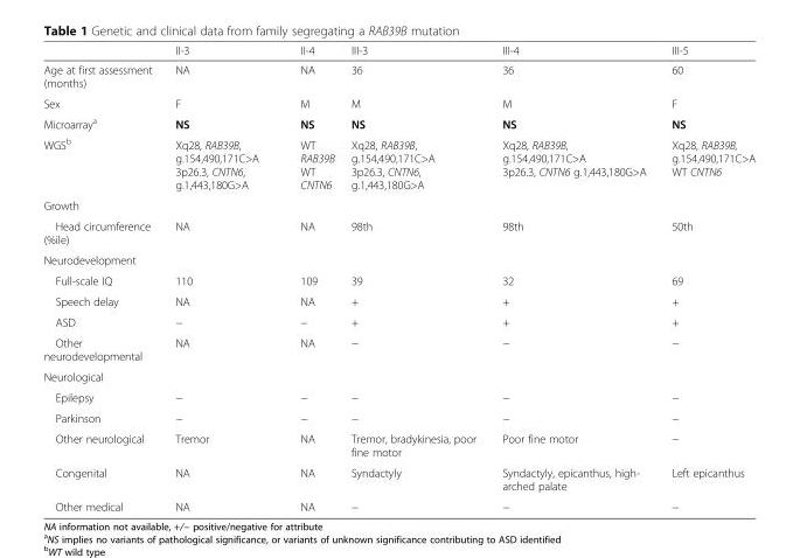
<table><thead><tr><td></td><td>II-3</td><td>II-4</td><td>III-3</td><td>III-4</td><td>III-5</td></tr></thead><tbody><tr><td>Age at first assessment (months)</td><td>NA</td><td>NA</td><td>36</td><td>36</td><td>60</td></tr><tr><td>Sex</td><td>F</td><td>M</td><td>M</td><td>M</td><td>F</td></tr><tr><td>Microarray<sup>a</sup></td><td>NS</td><td>NS</td><td>NS</td><td>NS</td><td>NS</td></tr><tr><td>WGS<sup>b</sup></td><td>Xq28, RAB39B, g.154,490,171C&gt;A 3p26.3, CNTN6, g.1,443,180G&gt;A</td><td>WT RAB39B WT CNTN6</td><td>Xq28, RAB39B, g.154,490,171C&gt;A 3p26.3, CNTN6, g.1,443,180G&gt;A</td><td>Xq28, RAB39B, g.154,490,171C&gt;A 3p26.3, CNTN6 g.1,443,180G&gt;A</td><td>Xq28, RAB39B, g.154,490,171C&gt;A WT CNTN6</td></tr><tr><td colspan="6">Growth</td></tr><tr><td>Head circumference (%ile)</td><td>NA</td><td>NA</td><td>98th</td><td>98th</td><td>50th</td></tr><tr><td colspan="6">Neurodevelopment</td></tr><tr><td>Full-scale IQ</td><td>110</td><td>109</td><td>39</td><td>32</td><td>69</td></tr><tr><td>Speech delay</td><td>NA</td><td>NA</td><td>+</td><td>+</td><td>+</td></tr><tr><td>ASD</td><td>−</td><td>−</td><td>+</td><td>+</td><td>+</td></tr><tr><td>Other neurodevelopmental</td><td>NA</td><td>NA</td><td>−</td><td>−</td><td>−</td></tr><tr><td colspan="6">Neurological</td></tr><tr><td>Epilepsy</td><td>−</td><td>−</td><td>−</td><td>−</td><td>−</td></tr><tr><td>Parkinson</td><td>−</td><td>−</td><td>−</td><td>−</td><td>−</td></tr><tr><td>Other neurological</td><td>Tremor</td><td>NA</td><td>Tremor, bradykinesia, poor fine motor</td><td>Poor fine motor</td><td>−</td></tr><tr><td>Congenital</td><td>NA</td><td>NA</td><td>Syndactyly</td><td>Syndactyly, epicanthus, high- arched palate</td><td>Left epicanthus</td></tr><tr><td>Other medical</td><td>NA</td><td>NA</td><td>−</td><td>−</td><td>−</td></tr></tbody></table>